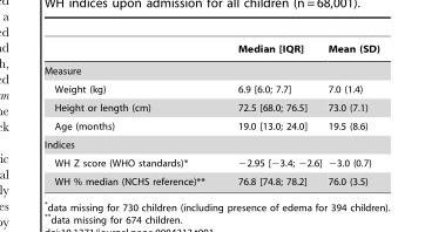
<table><thead><tr><td></td><td>Median [IQR]</td><td>Mean (SD)</td></tr></thead><tbody><tr><td colspan="3">Measure</td></tr><tr><td>Weight (kg)</td><td>6.9 [6.0; 7.7]</td><td>7.0 (1.4)</td></tr><tr><td>Height or length (cm)</td><td>72.5 [68.0; 76.5]</td><td>73.0 (7.1)</td></tr><tr><td>Age (months)</td><td>19.0 [13.0; 24.0]</td><td>19.5 (8.6)</td></tr><tr><td colspan="3">Indices</td></tr><tr><td>WH Z score (WHO standards)*</td><td>−2.95 [−3.4; −2.6]</td><td>−3.0 (0.7)</td></tr><tr><td>WH % median (NCHS reference)**</td><td>76.8 [74.8; 78.2]</td><td>76.0 (3.5)</td></tr></tbody></table>